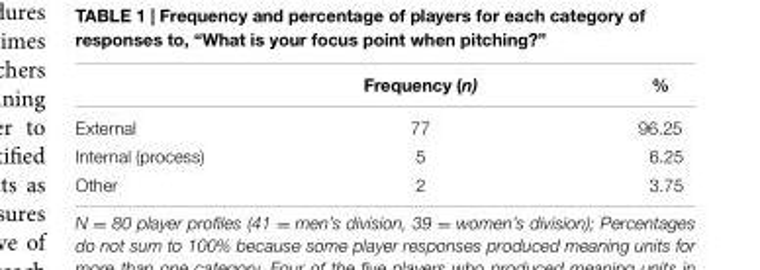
<table><thead><tr><td></td><td>Frequency (n)</td><td>%</td></tr></thead><tbody><tr><td>External</td><td>77</td><td>96.25</td></tr><tr><td>Internal (process)</td><td>5</td><td>6.25</td></tr><tr><td>Other</td><td>2</td><td>3.75</td></tr></tbody></table>